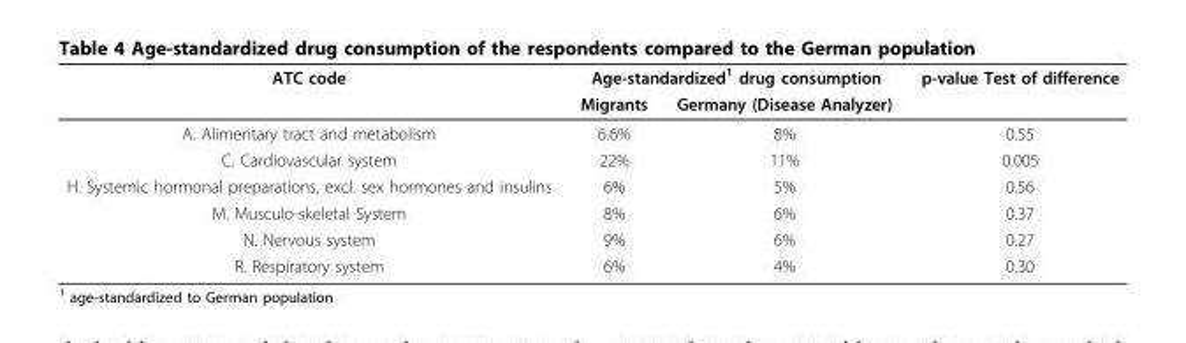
<table><thead><tr><td rowspan="2">ATC code</td><td colspan="2">Age-standardized<sup>1</sup> drug consumption</td><td rowspan="2">p-value Test of difference</td></tr><tr><td>Migrants</td><td>Germany (Disease Analyzer)</td></tr></thead><tbody><tr><td>A. Alimentary tract and metabolism</td><td>6.6%</td><td>8%</td><td>0.55</td></tr><tr><td>C. Cardiovascular system</td><td>22%</td><td>11%</td><td>0.005</td></tr><tr><td>H. Systemic hormonal preparations, excl. sex hormones and insulins</td><td>6%</td><td>5%</td><td>0.56</td></tr><tr><td>M. Musculo-skeletal System</td><td>8%</td><td>6%</td><td>0.37</td></tr><tr><td>N. Nervous system</td><td>9%</td><td>6%</td><td>0.27</td></tr><tr><td>R. Respiratory system</td><td>6%</td><td>4%</td><td>0.30</td></tr></tbody></table>